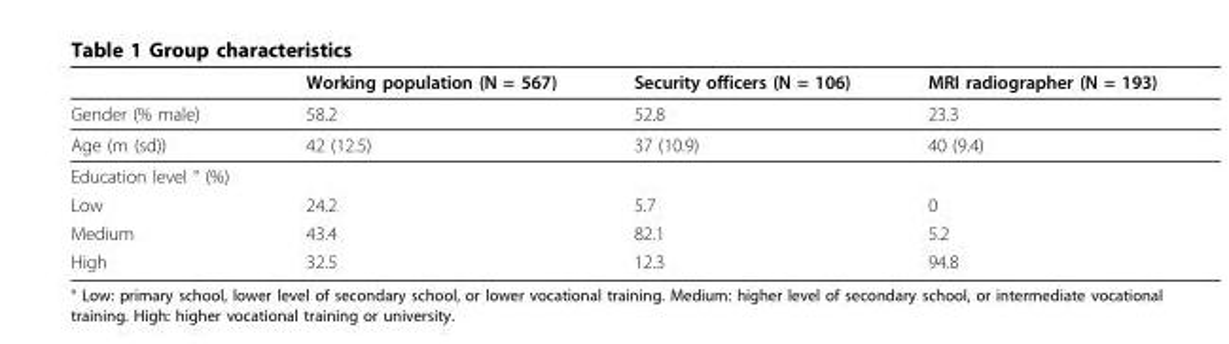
<table><thead><tr><td></td><td>Working population (N = 567)</td><td>Security officers (N = 106)</td><td>MRI radiographer (N = 193)</td></tr></thead><tbody><tr><td>Gender (% male)</td><td>58.2</td><td>52.8</td><td>23.3</td></tr><tr><td>Age (m (sd))</td><td>42 (12.5)</td><td>37 (10.9)</td><td>40 (9.4)</td></tr><tr><td colspan="4">Education level ° (%)</td></tr><tr><td>Low</td><td>24.2</td><td>5.7</td><td>0</td></tr><tr><td>Medium</td><td>43.4</td><td>82.1</td><td>5.2</td></tr><tr><td>High</td><td>32.5</td><td>12.3</td><td>94.8</td></tr></tbody></table>